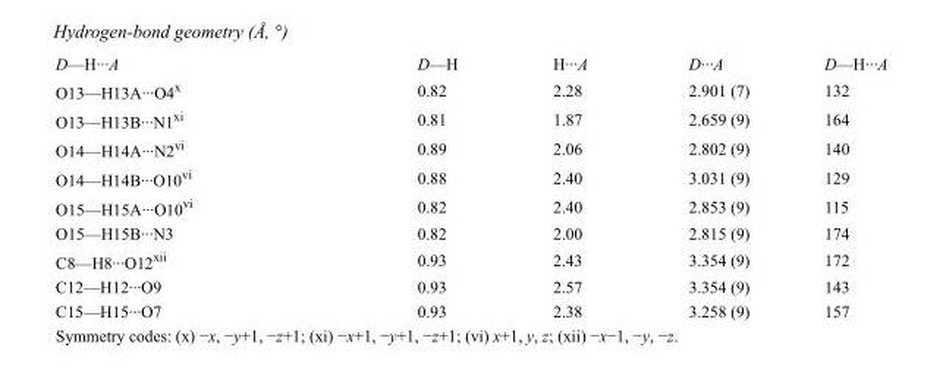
<table><tbody><tr><td>D—H···A</td><td>D—H</td><td>H···A</td><td>D···A</td><td>D—H···A</td></tr><tr><td>O13—H13A···O4<sup>x</sup></td><td>0.82</td><td>2.28</td><td>2.901 (7)</td><td>132</td></tr><tr><td>O13—H13B···N1<sup>xi</sup></td><td>0.81</td><td>1.87</td><td>2.659 (9)</td><td>164</td></tr><tr><td>O14—H14A···N2<sup>vi</sup></td><td>0.89</td><td>2.06</td><td>2.802 (9)</td><td>140</td></tr><tr><td>O14—H14B···O10<sup>vi</sup></td><td>0.88</td><td>2.40</td><td>3.031 (9)</td><td>129</td></tr><tr><td>O15—H15A···O10<sup>vi</sup></td><td>0.82</td><td>2.40</td><td>2.853 (9)</td><td>115</td></tr><tr><td>O15—H15B···N3</td><td>0.82</td><td>2.00</td><td>2.815 (9)</td><td>174</td></tr><tr><td>C8—H8···O12<sup>xii</sup></td><td>0.93</td><td>2.43</td><td>3.354 (9)</td><td>172</td></tr><tr><td>C12—H12···O9</td><td>0.93</td><td>2.57</td><td>3.354 (9)</td><td>143</td></tr><tr><td>C15—H15···O7</td><td>0.93</td><td>2.38</td><td>3.258 (9)</td><td>157</td></tr></tbody></table>